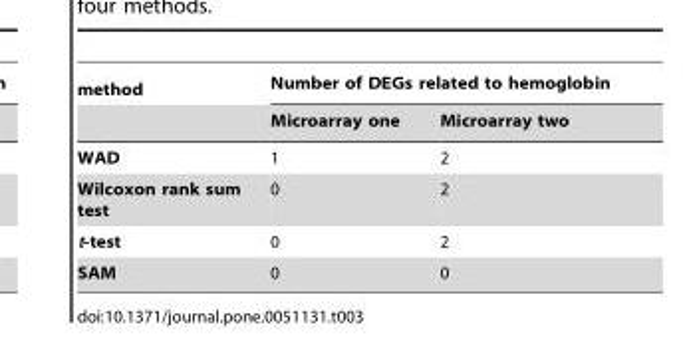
<table><thead><tr><td rowspan="2">method</td><td colspan="2">Number of DEGs related to hemoglobin</td></tr><tr><td>Microarray one</td><td>Microarray two</td></tr></thead><tbody><tr><td>WAD</td><td>1</td><td>2</td></tr><tr><td>Wilcoxon rank sum test</td><td>0</td><td>2</td></tr><tr><td>t-test</td><td>0</td><td>2</td></tr><tr><td>SAM</td><td>0</td><td>0</td></tr></tbody></table>